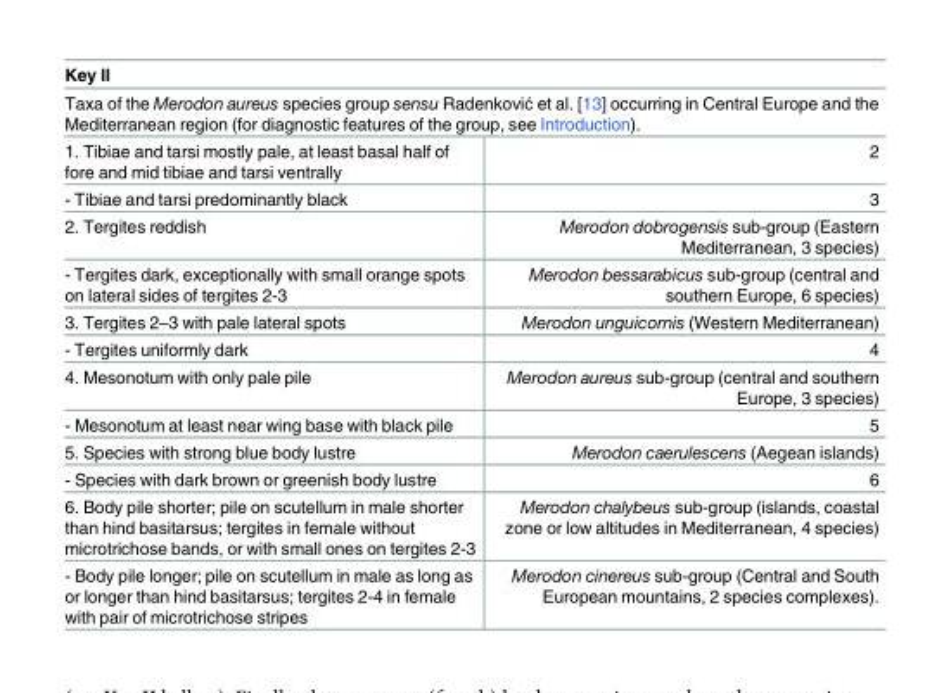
<table><thead><tr><td rowspan="2" colspan="2">Key II Taxa of the Merodon aureus species group sensu Radenković et al. [13] occurring in Central Europe and the Mediterranean region (for diagnostic features of the group, see Introduction).</td></tr><tr></tr><tr><td>1. Tibiae and tarsi mostly pale, at least basal half of fore and mid tibiae and tarsi ventrally</td><td>2</td></tr></thead><tbody><tr><td>- Tibiae and tarsi predominantly black</td><td>3</td></tr><tr><td>2. Tergites reddish</td><td>Merodon dobrogensis sub-group (Eastern Mediterranean, 3 species)</td></tr><tr><td>- Tergites dark, exceptionally with small orange spots on lateral sides of tergites 2-3</td><td>Merodon bessarabicus sub-group (central and southern Europe, 6 species)</td></tr><tr><td>3. Tergites 2–3 with pale lateral spots</td><td>Merodon unguicornis (Western Mediterranean)</td></tr><tr><td>- Tergites uniformly dark</td><td>4</td></tr><tr><td>4. Mesonotum with only pale pile</td><td>Merodon aureus sub-group (central and southern Europe, 3 species)</td></tr><tr><td>- Mesonotum at least near wing base with black pile</td><td>5</td></tr><tr><td>5. Species with strong blue body lustre</td><td>Merodon caerulescens (Aegean islands)</td></tr><tr><td>- Species with dark brown or greenish body lustre</td><td>6</td></tr><tr><td>6. Body pile shorter; pile on scutellum in male shorter than hind basitarsus; tergites in female without microtrichose bands, or with small ones on tergites 2-3</td><td>Merodon chalybeus sub-group (islands, coastal zone or low altitudes in Mediterranean, 4 species)</td></tr><tr><td>- Body pile longer; pile on scutellum in male as long as or longer than hind basitarsus; tergites 2-4 in female with pair of microtrichose stripes</td><td>Merodon cinereus sub-group (Central and South European mountains, 2 species complexes).</td></tr></tbody></table>